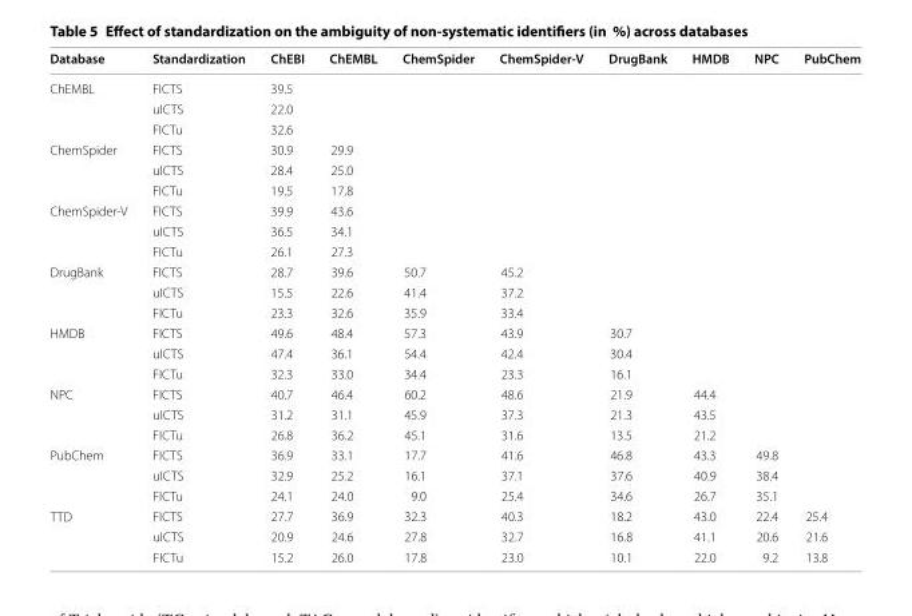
<table><thead><tr><td>Database</td><td>Standardization</td><td>ChEBI</td><td>ChEMBL</td><td>ChemSpider</td><td>ChemSpider‑V</td><td>DrugBank</td><td>HMDB</td><td>NPC</td><td>PubChem</td></tr></thead><tbody><tr><td rowspan="3">ChEMBL</td><td>FICTS</td><td>39.5</td><td></td><td></td><td></td><td></td><td></td><td></td><td></td></tr><tr><td>uICTS</td><td>22.0</td><td></td><td></td><td></td><td></td><td></td><td></td><td></td></tr><tr><td>FICTu</td><td>32.6</td><td></td><td></td><td></td><td></td><td></td><td></td><td></td></tr><tr><td rowspan="3">ChemSpider</td><td>FICTS</td><td>30.9</td><td>29.9</td><td></td><td></td><td></td><td></td><td></td><td></td></tr><tr><td>uICTS</td><td>28.4</td><td>25.0</td><td></td><td></td><td></td><td></td><td></td><td></td></tr><tr><td>FICTu</td><td>19.5</td><td>17.8</td><td></td><td></td><td></td><td></td><td></td><td></td></tr><tr><td rowspan="3">ChemSpider-V</td><td>FICTS</td><td>39.9</td><td>43.6</td><td></td><td></td><td></td><td></td><td></td><td></td></tr><tr><td>uICTS</td><td>36.5</td><td>34.1</td><td></td><td></td><td></td><td></td><td></td><td></td></tr><tr><td>FICTu</td><td>26.1</td><td>27.3</td><td></td><td></td><td></td><td></td><td></td><td></td></tr><tr><td rowspan="3">DrugBank</td><td>FICTS</td><td>28.7</td><td>39.6</td><td>50.7</td><td>45.2</td><td></td><td></td><td></td><td></td></tr><tr><td>uICTS</td><td>15.5</td><td>22.6</td><td>41.4</td><td>37.2</td><td></td><td></td><td></td><td></td></tr><tr><td>FICTu</td><td>23.3</td><td>32.6</td><td>35.9</td><td>33.4</td><td></td><td></td><td></td><td></td></tr><tr><td rowspan="3">HMDB</td><td>FICTS</td><td>49.6</td><td>48.4</td><td>57.3</td><td>43.9</td><td>30.7</td><td></td><td></td><td></td></tr><tr><td>uICTS</td><td>47.4</td><td>36.1</td><td>54.4</td><td>42.4</td><td>30.4</td><td></td><td></td><td></td></tr><tr><td>FICTu</td><td>32.3</td><td>33.0</td><td>34.4</td><td>23.3</td><td>16.1</td><td></td><td></td><td></td></tr><tr><td rowspan="3">NPC</td><td>FICTS</td><td>40.7</td><td>46.4</td><td>60.2</td><td>48.6</td><td>21.9</td><td>44.4</td><td></td><td></td></tr><tr><td>uICTS</td><td>31.2</td><td>31.1</td><td>45.9</td><td>37.3</td><td>21.3</td><td>43.5</td><td></td><td></td></tr><tr><td>FICTu</td><td>26.8</td><td>36.2</td><td>45.1</td><td>31.6</td><td>13.5</td><td>21.2</td><td></td><td></td></tr><tr><td rowspan="3">PubChem</td><td>FICTS</td><td>36.9</td><td>33.1</td><td>17.7</td><td>41.6</td><td>46.8</td><td>43.3</td><td>49.8</td><td></td></tr><tr><td>uICTS</td><td>32.9</td><td>25.2</td><td>16.1</td><td>37.1</td><td>37.6</td><td>40.9</td><td>38.4</td><td></td></tr><tr><td>FICTu</td><td>24.1</td><td>24.0</td><td>9.0</td><td>25.4</td><td>34.6</td><td>26.7</td><td>35.1</td><td></td></tr><tr><td rowspan="3">TTD</td><td>FICTS</td><td>27.7</td><td>36.9</td><td>32.3</td><td>40.3</td><td>18.2</td><td>43.0</td><td>22.4</td><td>25.4</td></tr><tr><td>uICTS</td><td>20.9</td><td>24.6</td><td>27.8</td><td>32.7</td><td>16.8</td><td>41.1</td><td>20.6</td><td>21.6</td></tr><tr><td>FICTu</td><td>15.2</td><td>26.0</td><td>17.8</td><td>23.0</td><td>10.1</td><td>22.0</td><td>9.2</td><td>13.8</td></tr></tbody></table>